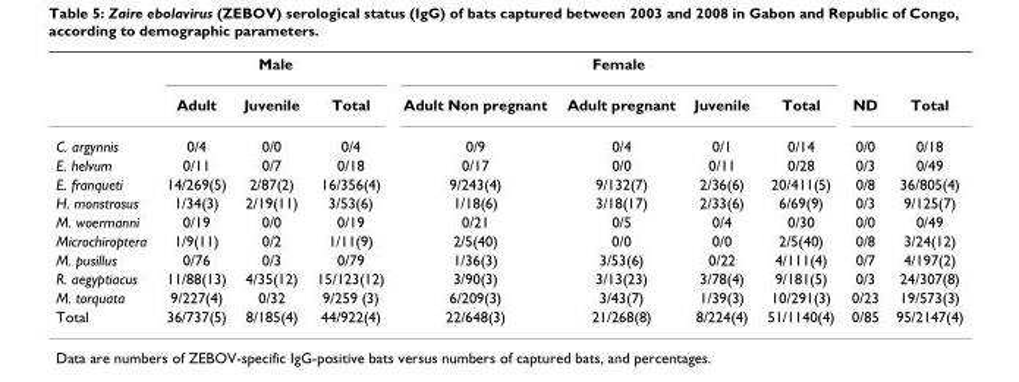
<table><thead><tr><td rowspan="2"></td><td colspan="3">Male</td><td colspan="4">Female</td><td rowspan="2">ND</td><td rowspan="2">Total</td></tr><tr><td>Adult</td><td>Juvenile</td><td>Total</td><td>Adult Non pregnant</td><td>Adult pregnant</td><td>Juvenile</td><td>Total</td></tr></thead><tbody><tr><td>C. argynnis</td><td>0/4</td><td>0/0</td><td>0/4</td><td>0/9</td><td>0/4</td><td>0/1</td><td>0/14</td><td>0/0</td><td>0/18</td></tr><tr><td>E. helvum</td><td>0/11</td><td>0/7</td><td>0/18</td><td>0/17</td><td>0/0</td><td>0/11</td><td>0/28</td><td>0/3</td><td>0/49</td></tr><tr><td>E. franqueti</td><td>14/269(5)</td><td>2/87(2)</td><td>16/356(4)</td><td>9/243(4)</td><td>9/132(7)</td><td>2/36(6)</td><td>20/411(5)</td><td>0/8</td><td>36/805(4)</td></tr><tr><td>H. monstrosus</td><td>1/34(3)</td><td>2/19(11)</td><td>3/53(6)</td><td>1/18(6)</td><td>3/18(17)</td><td>2/33(6)</td><td>6/69(9)</td><td>0/3</td><td>9/125(7)</td></tr><tr><td>M. woermanni</td><td>0/19</td><td>0/0</td><td>0/19</td><td>0/21</td><td>0/5</td><td>0/4</td><td>0/30</td><td>0/0</td><td>0/49</td></tr><tr><td>Microchiroptera</td><td>1/9(11)</td><td>0/2</td><td>1/11(9)</td><td>2/5(40)</td><td>0/0</td><td>0/0</td><td>2/5(40)</td><td>0/8</td><td>3/24(12)</td></tr><tr><td>M. pusillus</td><td>0/76</td><td>0/3</td><td>0/79</td><td>1/36(3)</td><td>3/53(6)</td><td>0/22</td><td>4/111(4)</td><td>0/7</td><td>4/197(2)</td></tr><tr><td>R. aegyptiacus</td><td>11/88(13)</td><td>4/35(12)</td><td>15/123(12)</td><td>3/90(3)</td><td>3/13(23)</td><td>3/78(4)</td><td>9/181(5)</td><td>0/3</td><td>24/307(8)</td></tr><tr><td>M. torquata</td><td>9/227(4)</td><td>0/32</td><td>9/259 (3)</td><td>6/209(3)</td><td>3/43(7)</td><td>1/39(3)</td><td>10/291(3)</td><td>0/23</td><td>19/573(3)</td></tr><tr><td>Total</td><td>36/737(5)</td><td>8/185(4)</td><td>44/922(4)</td><td>22/648(3)</td><td>21/268(8)</td><td>8/224(4)</td><td>51/1140(4)</td><td>0/85</td><td>95/2147(4)</td></tr></tbody></table>